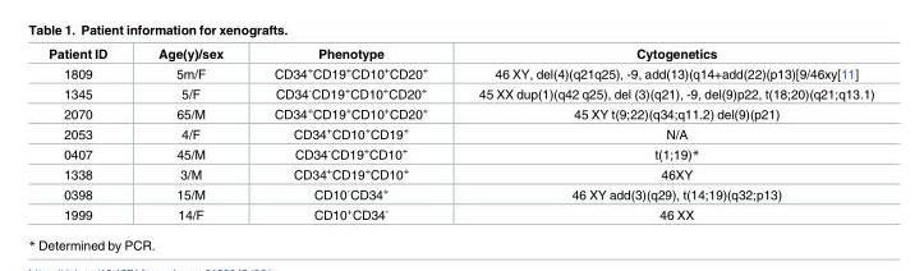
<table><thead><tr><td>Patient ID</td><td>Age(y)/sex</td><td>Phenotype</td><td>Cytogenetics</td></tr></thead><tbody><tr><td>1809</td><td>5m/F</td><td>CD34<sup>+</sup>CD19<sup>+</sup>CD10<sup>+</sup>CD20<sup>+</sup></td><td>46 XY, del(4)(q21q25), -9, add(13)(q14+add(22)(p13)[9/46xy[11]</td></tr><tr><td>1345</td><td>5/F</td><td>CD34<sup>-</sup>CD19<sup>+</sup>CD10<sup>+</sup>CD20<sup>+</sup></td><td>45 XX dup(1)(q42 q25), del (3)(q21), -9, del(9)p22, t(18;20)(q21;q13.1)</td></tr><tr><td>2070</td><td>65/M</td><td>CD34<sup>+</sup>CD19<sup>+</sup>CD10<sup>+</sup>CD20<sup>+</sup></td><td>45 XY t(9;22)(q34;q11.2) del(9)(p21)</td></tr><tr><td>2053</td><td>4/F</td><td>CD34<sup>+</sup>CD10<sup>+</sup>CD19<sup>+</sup></td><td>N/A</td></tr><tr><td>0407</td><td>45/M</td><td>CD34<sup>-</sup>CD19<sup>+</sup>CD10<sup>+</sup></td><td>t(1;19)*</td></tr><tr><td>1338</td><td>3/M</td><td>CD34<sup>+</sup>CD19<sup>+</sup>CD10<sup>+</sup></td><td>46XY</td></tr><tr><td>0398</td><td>15/M</td><td>CD10<sup>-</sup>CD34<sup>+</sup></td><td>46 XY add(3)(q29), t(14;19)(q32;p13)</td></tr><tr><td>1999</td><td>14/F</td><td>CD10<sup>+</sup>CD34<sup>-</sup></td><td>46 XX</td></tr></tbody></table>